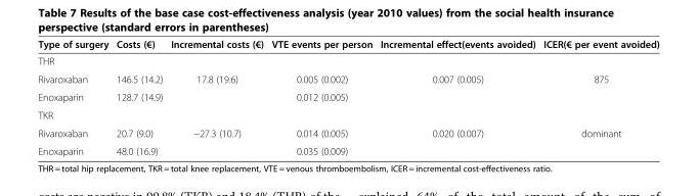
<table><thead><tr><td>Type of surgery</td><td>Costs (€)</td><td>Incremental costs (€)</td><td>VTE events per person</td><td>Incremental effect(events avoided)</td><td>ICER(€ per event avoided)</td></tr></thead><tbody><tr><td colspan="6">THR</td></tr><tr><td>Rivaroxaban</td><td>146.5 (14.2)</td><td>17.8 (19.6)</td><td>0.005 (0.002)</td><td>0.007 (0.005)</td><td>875</td></tr><tr><td>Enoxaparin</td><td>128.7 (14.9)</td><td></td><td>0.012 (0.005)</td><td></td><td></td></tr><tr><td colspan="6">TKR</td></tr><tr><td>Rivaroxaban</td><td>20.7 (9.0)</td><td>−27.3 (10.7)</td><td>0.014 (0.005)</td><td>0.020 (0.007)</td><td>dominant</td></tr><tr><td>Enoxaparin</td><td>48.0 (16.9)</td><td></td><td>0.035 (0.009)</td><td></td><td></td></tr></tbody></table>